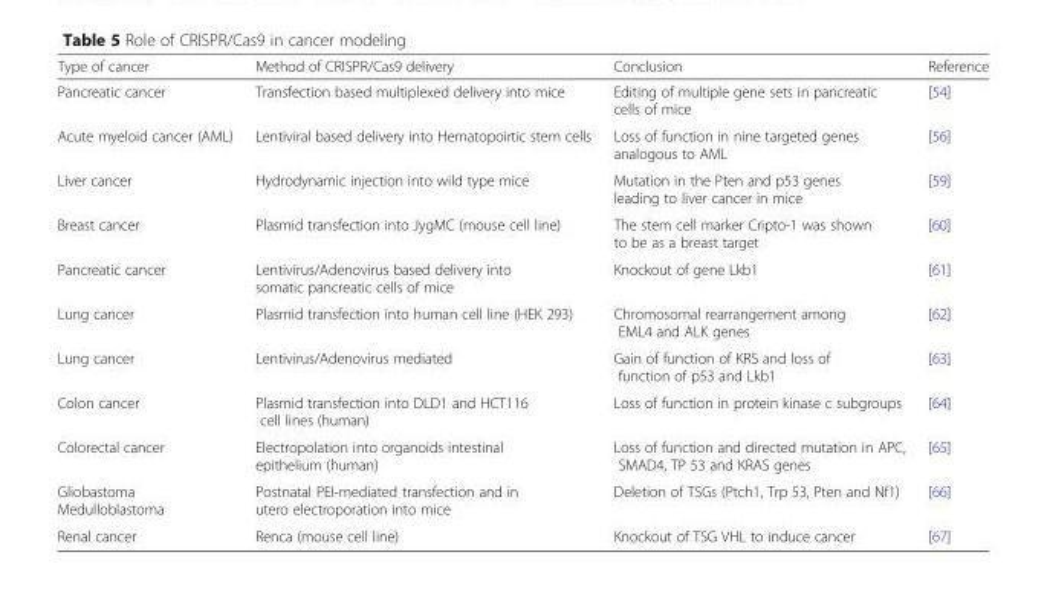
<table><thead><tr><td>Type of cancer</td><td>Method of CRISPR/Cas9 delivery</td><td>Conclusion</td><td>Reference</td></tr></thead><tbody><tr><td>Pancreatic cancer</td><td>Transfection based multiplexed delivery into mice</td><td>Editing of multiple gene sets in pancreatic cells of mice</td><td>[54]</td></tr><tr><td>Acute myeloid cancer (AML)</td><td>Lentiviral based delivery into Hematopoirtic stem cells</td><td>Loss of function in nine targeted genes analogous to AML</td><td>[56]</td></tr><tr><td>Liver cancer</td><td>Hydrodynamic injection into wild type mice</td><td>Mutation in the Pten and p53 genes leading to liver cancer in mice</td><td>[59]</td></tr><tr><td>Breast cancer</td><td>Plasmid transfection into JygMC (mouse cell line)</td><td>The stem cell marker Cripto-1 was shown to be as a breast target</td><td>[60]</td></tr><tr><td>Pancreatic cancer</td><td>Lentivirus/Adenovirus based delivery into somatic pancreatic cells of mice</td><td>Knockout of gene Lkb1</td><td>[61]</td></tr><tr><td>Lung cancer</td><td>Plasmid transfection into human cell line (HEK 293)</td><td>Chromosomal rearrangement among EML4 and ALK genes</td><td>[62]</td></tr><tr><td>Lung cancer</td><td>Lentivirus/Adenovirus mediated</td><td>Gain of function of KRS and loss of function of p53 and Lkb1</td><td>[63]</td></tr><tr><td>Colon cancer</td><td>Plasmid transfection into DLD1 and HCT116 cell lines (human)</td><td>Loss of function in protein kinase c subgroups</td><td>[64]</td></tr><tr><td>Colorectal cancer</td><td>Electropolation into organoids intestinal epithelium (human)</td><td>Loss of function and directed mutation in APC, SMAD4, TP 53 and KRAS genes</td><td>[65]</td></tr><tr><td>Gliobastoma Medulloblastoma</td><td>Postnatal PEI-mediated transfection and in utero electroporation into mice</td><td>Deletion of TSGs (Ptch1, Trp 53, Pten and Nf1)</td><td>[66]</td></tr><tr><td>Renal cancer</td><td>Renca (mouse cell line)</td><td>Knockout of TSG VHL to induce cancer</td><td>[67]</td></tr></tbody></table>